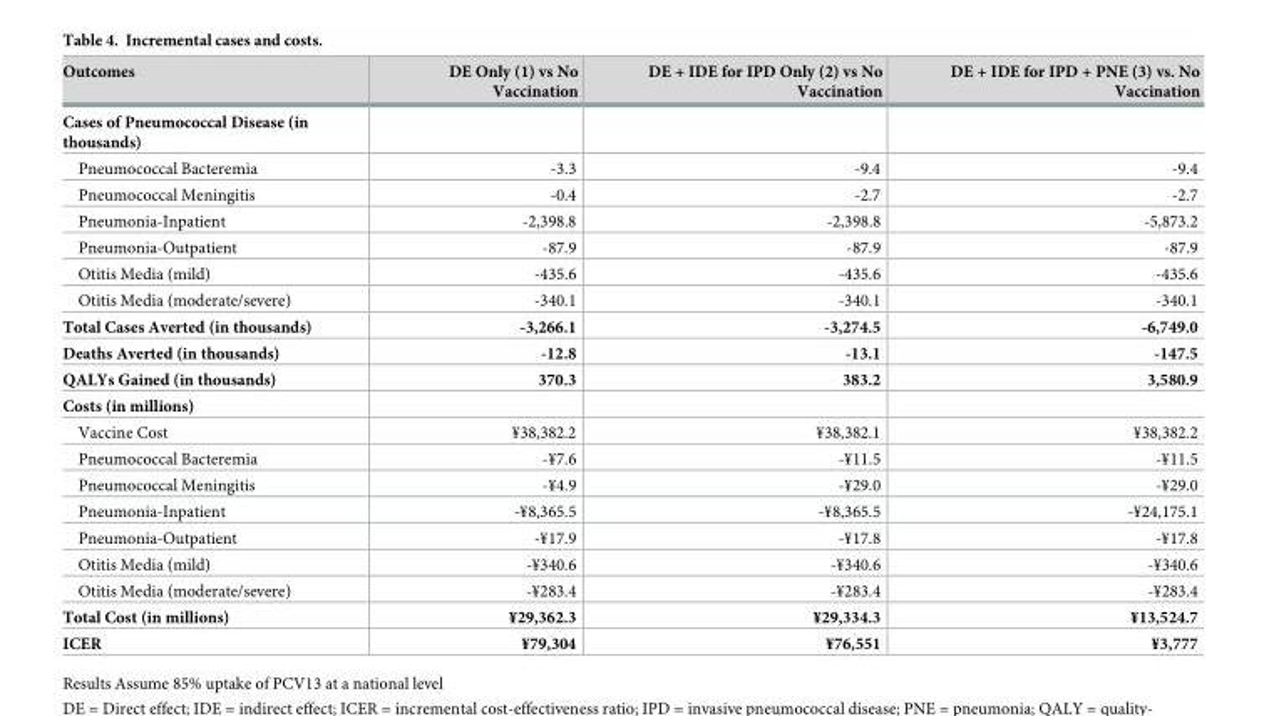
<table><thead><tr><td>Outcomes</td><td>DE Only (1) vs No Vaccination</td><td>DE + IDE for IPD Only (2) vs No Vaccination</td><td>DE + IDE for IPD + PNE (3) vs. No Vaccination</td></tr></thead><tbody><tr><td colspan="4">Cases of Pneumococcal Disease (in thousands)</td></tr><tr><td>Pneumococcal Bacteremia</td><td>-3.3</td><td>-9.4</td><td>-9.4</td></tr><tr><td>Pneumococcal Meningitis</td><td>-0.4</td><td>-2.7</td><td>-2.7</td></tr><tr><td>Pneumonia-Inpatient</td><td>-2,398.8</td><td>-2,398.8</td><td>-5,873.2</td></tr><tr><td>Pneumonia-Outpatient</td><td>-87.9</td><td>-87.9</td><td>-87.9</td></tr><tr><td>Otitis Media (mild)</td><td>-435.6</td><td>-435.6</td><td>-435.6</td></tr><tr><td>Otitis Media (moderate/severe)</td><td>-340.1</td><td>-340.1</td><td>-340.1</td></tr><tr><td>Total Cases Averted (in thousands)</td><td>-3,266.1</td><td>-3,274.5</td><td>-6,749.0</td></tr><tr><td>Deaths Averted (in thousands)</td><td>-12.8</td><td>-13.1</td><td>-147.5</td></tr><tr><td>QALYs Gained (in thousands)</td><td>370.3</td><td>383.2</td><td>3,580.9</td></tr><tr><td colspan="4">Costs (in millions)</td></tr><tr><td>Vaccine Cost</td><td>¥38,382.2</td><td>¥38,382.1</td><td>¥38,382.2</td></tr><tr><td>Pneumococcal Bacteremia</td><td>-¥7.6</td><td>-¥11.5</td><td>-¥11.5</td></tr><tr><td>Pneumococcal Meningitis</td><td>-¥4.9</td><td>-¥29.0</td><td>-¥29.0</td></tr><tr><td>Pneumonia-Inpatient</td><td>-¥8,365.5</td><td>-¥8,365.5</td><td>-¥24,175.1</td></tr><tr><td>Pneumonia-Outpatient</td><td>-¥17.9</td><td>-¥17.8</td><td>-¥17.8</td></tr><tr><td>Otitis Media (mild)</td><td>-¥340.6</td><td>-¥340.6</td><td>-¥340.6</td></tr><tr><td>Otitis Media (moderate/severe)</td><td>-¥283.4</td><td>-¥283.4</td><td>-¥283.4</td></tr><tr><td>Total Cost (in millions)</td><td>¥29,362.3</td><td>¥29,334.3</td><td>¥13,524.7</td></tr><tr><td>ICER</td><td>¥79,304</td><td>¥76,551</td><td>¥3,777</td></tr></tbody></table>